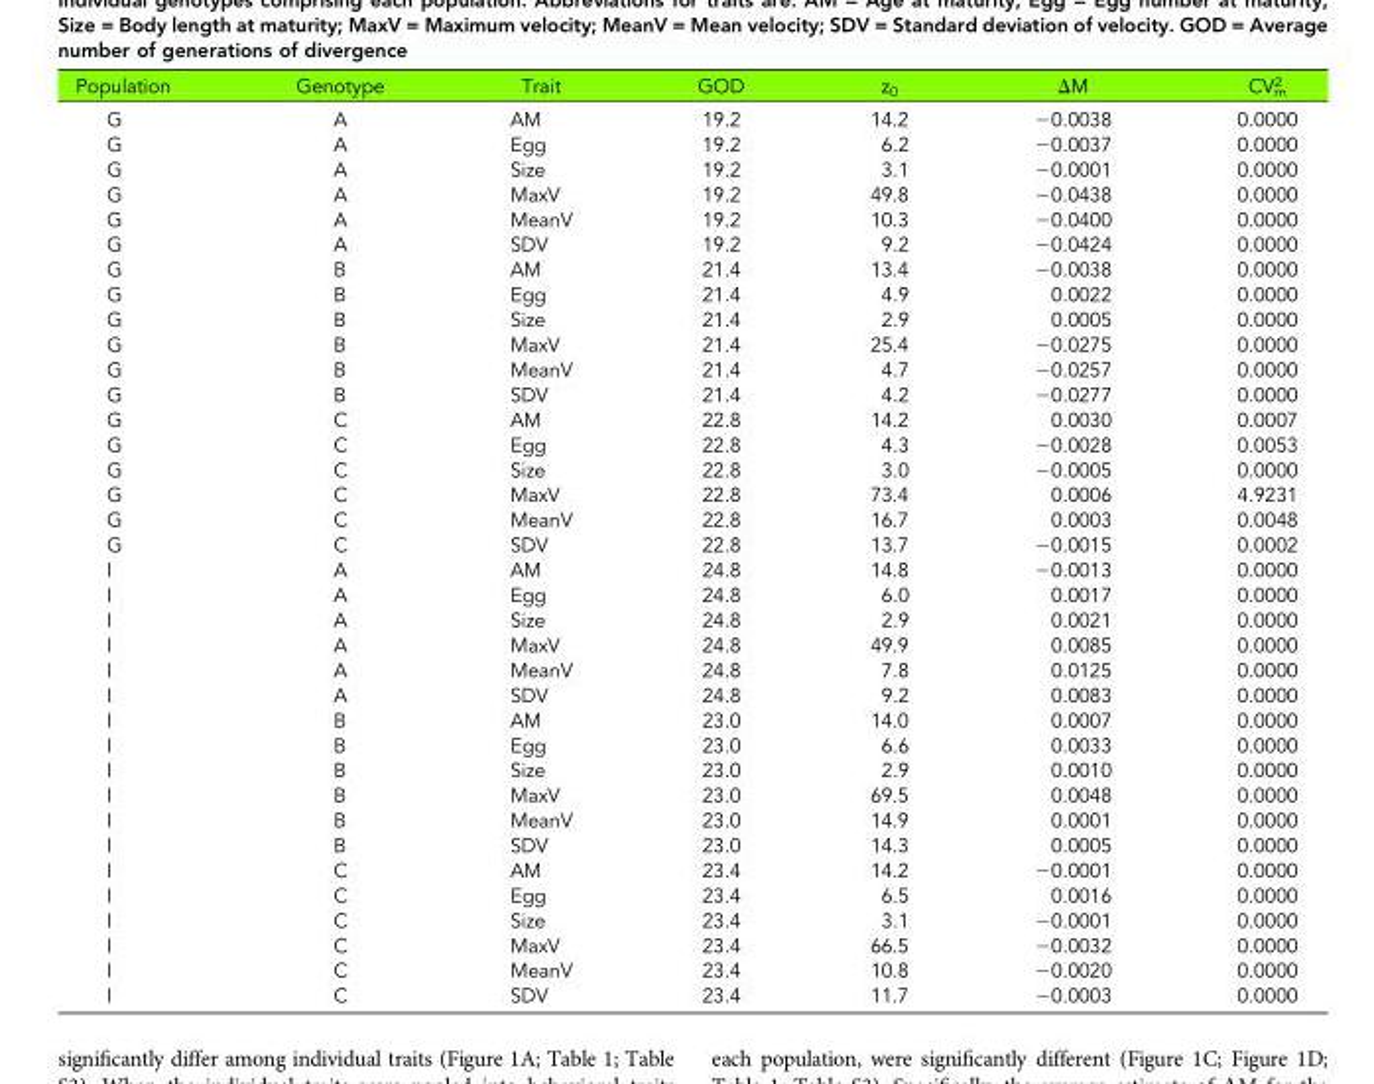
<table><thead><tr><td>Population</td><td>Genotype</td><td>Trait</td><td>GOD</td><td>z<sub>0</sub></td><td>ΔM</td><td>CV<sub>m</sub> <sup>2</sup></td></tr></thead><tbody><tr><td>G</td><td>A</td><td>AM</td><td>19.2</td><td>14.2</td><td>−0.0038</td><td>0.0000</td></tr><tr><td>G</td><td>A</td><td>Egg</td><td>19.2</td><td>6.2</td><td>−0.0037</td><td>0.0000</td></tr><tr><td>G</td><td>A</td><td>Size</td><td>19.2</td><td>3.1</td><td>−0.0001</td><td>0.0000</td></tr><tr><td>G</td><td>A</td><td>MaxV</td><td>19.2</td><td>49.8</td><td>−0.0438</td><td>0.0000</td></tr><tr><td>G</td><td>A</td><td>MeanV</td><td>19.2</td><td>10.3</td><td>−0.0400</td><td>0.0000</td></tr><tr><td>G</td><td>A</td><td>SDV</td><td>19.2</td><td>9.2</td><td>−0.0424</td><td>0.0000</td></tr><tr><td>G</td><td>B</td><td>AM</td><td>21.4</td><td>13.4</td><td>−0.0038</td><td>0.0000</td></tr><tr><td>G</td><td>B</td><td>Egg</td><td>21.4</td><td>4.9</td><td>0.0022</td><td>0.0000</td></tr><tr><td>G</td><td>B</td><td>Size</td><td>21.4</td><td>2.9</td><td>0.0005</td><td>0.0000</td></tr><tr><td>G</td><td>B</td><td>MaxV</td><td>21.4</td><td>25.4</td><td>−0.0275</td><td>0.0000</td></tr><tr><td>G</td><td>B</td><td>MeanV</td><td>21.4</td><td>4.7</td><td>−0.0257</td><td>0.0000</td></tr><tr><td>G</td><td>B</td><td>SDV</td><td>21.4</td><td>4.2</td><td>−0.0277</td><td>0.0000</td></tr><tr><td>G</td><td>C</td><td>AM</td><td>22.8</td><td>14.2</td><td>0.0030</td><td>0.0007</td></tr><tr><td>G</td><td>C</td><td>Egg</td><td>22.8</td><td>4.3</td><td>−0.0028</td><td>0.0053</td></tr><tr><td>G</td><td>C</td><td>Size</td><td>22.8</td><td>3.0</td><td>−0.0005</td><td>0.0000</td></tr><tr><td>G</td><td>C</td><td>MaxV</td><td>22.8</td><td>73.4</td><td>0.0006</td><td>4.9231</td></tr><tr><td>G</td><td>C</td><td>MeanV</td><td>22.8</td><td>16.7</td><td>0.0003</td><td>0.0048</td></tr><tr><td>G</td><td>C</td><td>SDV</td><td>22.8</td><td>13.7</td><td>−0.0015</td><td>0.0002</td></tr><tr><td>I</td><td>A</td><td>AM</td><td>24.8</td><td>14.8</td><td>−0.0013</td><td>0.0000</td></tr><tr><td>I</td><td>A</td><td>Egg</td><td>24.8</td><td>6.0</td><td>0.0017</td><td>0.0000</td></tr><tr><td>I</td><td>A</td><td>Size</td><td>24.8</td><td>2.9</td><td>0.0021</td><td>0.0000</td></tr><tr><td>I</td><td>A</td><td>MaxV</td><td>24.8</td><td>49.9</td><td>0.0085</td><td>0.0000</td></tr><tr><td>I</td><td>A</td><td>MeanV</td><td>24.8</td><td>7.8</td><td>0.0125</td><td>0.0000</td></tr><tr><td>I</td><td>A</td><td>SDV</td><td>24.8</td><td>9.2</td><td>0.0083</td><td>0.0000</td></tr><tr><td>I</td><td>B</td><td>AM</td><td>23.0</td><td>14.0</td><td>0.0007</td><td>0.0000</td></tr><tr><td>I</td><td>B</td><td>Egg</td><td>23.0</td><td>6.6</td><td>0.0033</td><td>0.0000</td></tr><tr><td>I</td><td>B</td><td>Size</td><td>23.0</td><td>2.9</td><td>0.0010</td><td>0.0000</td></tr><tr><td>I</td><td>B</td><td>MaxV</td><td>23.0</td><td>69.5</td><td>0.0048</td><td>0.0000</td></tr><tr><td>I</td><td>B</td><td>MeanV</td><td>23.0</td><td>14.9</td><td>0.0001</td><td>0.0000</td></tr><tr><td>I</td><td>B</td><td>SDV</td><td>23.0</td><td>14.3</td><td>0.0005</td><td>0.0000</td></tr><tr><td>I</td><td>C</td><td>AM</td><td>23.4</td><td>14.2</td><td>−0.0001</td><td>0.0000</td></tr><tr><td>I</td><td>C</td><td>Egg</td><td>23.4</td><td>6.5</td><td>0.0016</td><td>0.0000</td></tr><tr><td>I</td><td>C</td><td>Size</td><td>23.4</td><td>3.1</td><td>−0.0001</td><td>0.0000</td></tr><tr><td>I</td><td>C</td><td>MaxV</td><td>23.4</td><td>66.5</td><td>−0.0032</td><td>0.0000</td></tr><tr><td>I</td><td>C</td><td>MeanV</td><td>23.4</td><td>10.8</td><td>−0.0020</td><td>0.0000</td></tr><tr><td>I</td><td>C</td><td>SDV</td><td>23.4</td><td>11.7</td><td>−0.0003</td><td>0.0000</td></tr></tbody></table>